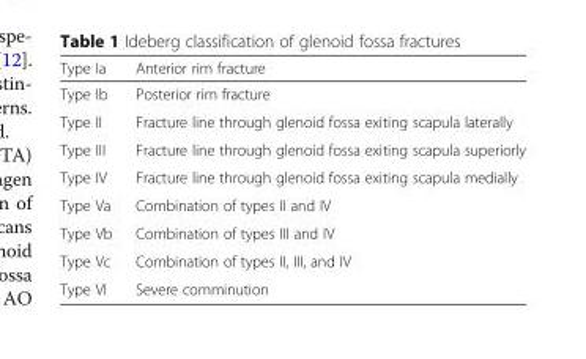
<table><thead><tr><td>Type Ia</td><td>Anterior rim fracture</td></tr></thead><tbody><tr><td>Type Ib</td><td>Posterior rim fracture</td></tr><tr><td>Type II</td><td>Fracture line through glenoid fossa exiting scapula laterally</td></tr><tr><td>Type III</td><td>Fracture line through glenoid fossa exiting scapula superiorly</td></tr><tr><td>Type IV</td><td>Fracture line through glenoid fossa exiting scapula medially</td></tr><tr><td>Type Va</td><td>Combination of types II and IV</td></tr><tr><td>Type Vb</td><td>Combination of types III and IV</td></tr><tr><td>Type Vc</td><td>Combination of types II, III, and IV</td></tr><tr><td>Type VI</td><td>Severe comminution</td></tr></tbody></table>